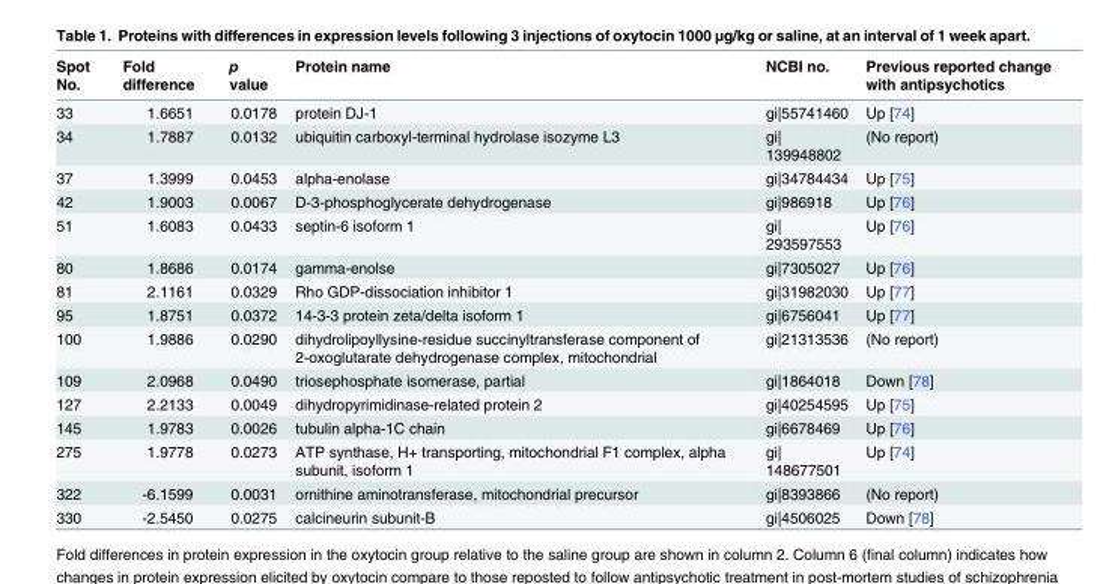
<table><thead><tr><td>Spot No.</td><td>Fold difference</td><td>p value</td><td>Protein name</td><td>NCBI no.</td><td>Previous reported change with antipsychotics</td></tr></thead><tbody><tr><td>33</td><td>1.6651</td><td>0.0178</td><td>protein DJ-1</td><td>gi|55741460</td><td>Up [74]</td></tr><tr><td>34</td><td>1.7887</td><td>0.0132</td><td>ubiquitin carboxyl-terminal hydrolase isozyme L3</td><td>gi| 139948802</td><td>(No report)</td></tr><tr><td>37</td><td>1.3999</td><td>0.0453</td><td>alpha-enolase</td><td>gi|34784434</td><td>Up [75]</td></tr><tr><td>42</td><td>1.9003</td><td>0.0067</td><td>D-3-phosphoglycerate dehydrogenase</td><td>gi|986918</td><td>Up [76]</td></tr><tr><td>51</td><td>1.6083</td><td>0.0433</td><td>septin-6 isoform 1</td><td>gi| 293597553</td><td>Up [76]</td></tr><tr><td>80</td><td>1.8686</td><td>0.0174</td><td>gamma-enolse</td><td>gi|7305027</td><td>Up [76]</td></tr><tr><td>81</td><td>2.1161</td><td>0.0329</td><td>Rho GDP-dissociation inhibitor 1</td><td>gi|31982030</td><td>Up [77]</td></tr><tr><td>95</td><td>1.8751</td><td>0.0372</td><td>14-3-3 protein zeta/delta isoform 1</td><td>gi|6756041</td><td>Up [77]</td></tr><tr><td>100</td><td>1.9886</td><td>0.0290</td><td>dihydrolipoyllysine-residue succinyltransferase component of 2-oxoglutarate dehydrogenase complex, mitochondrial</td><td>gi|21313536</td><td>(No report)</td></tr><tr><td>109</td><td>2.0968</td><td>0.0490</td><td>triosephosphate isomerase, partial</td><td>gi|1864018</td><td>Down [78]</td></tr><tr><td>127</td><td>2.2133</td><td>0.0049</td><td>dihydropyrimidinase-related protein 2</td><td>gi|40254595</td><td>Up [75]</td></tr><tr><td>145</td><td>1.9783</td><td>0.0026</td><td>tubulin alpha-1C chain</td><td>gi|6678469</td><td>Up [76]</td></tr><tr><td>275</td><td>1.9778</td><td>0.0273</td><td>ATP synthase, H+ transporting, mitochondrial F1 complex, alpha subunit, isoform 1</td><td>gi| 148677501</td><td>Up [74]</td></tr><tr><td>322</td><td>-6.1599</td><td>0.0031</td><td>ornithine aminotransferase, mitochondrial precursor</td><td>gi|8393866</td><td>(No report)</td></tr><tr><td>330</td><td>-2.5450</td><td>0.0275</td><td>calcineurin subunit-B</td><td>gi|4506025</td><td>Down [78]</td></tr></tbody></table>